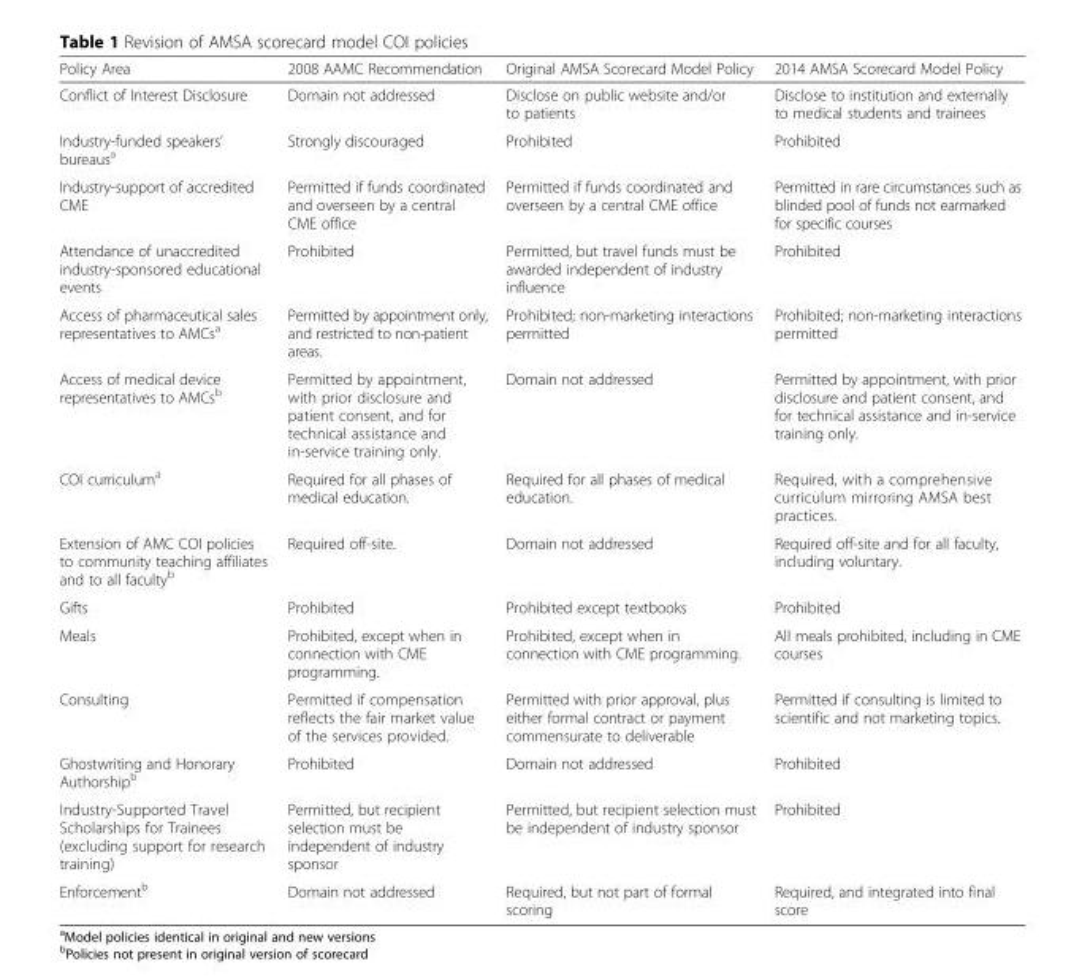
<table><thead><tr><td>Policy Area</td><td>2008 AAMC Recommendation</td><td>Original AMSA Scorecard Model Policy</td><td>2014 AMSA Scorecard Model Policy</td></tr></thead><tbody><tr><td>Conflict of Interest Disclosure</td><td>Domain not addressed</td><td>Disclose on public website and/or to patients</td><td>Disclose to institution and externally to medical students and trainees</td></tr><tr><td>Industry-funded speakers’ bureaus<sup>a</sup></td><td>Strongly discouraged</td><td>Prohibited</td><td>Prohibited</td></tr><tr><td>Industry-support of accredited CME</td><td>Permitted if funds coordinated and overseen by a central CME office</td><td>Permitted if funds coordinated and overseen by a central CME office</td><td>Permitted in rare circumstances such as blinded pool of funds not earmarked for specific courses</td></tr><tr><td>Attendance of unaccredited industry-sponsored educational events</td><td>Prohibited</td><td>Permitted, but travel funds must be awarded independent of industry influence</td><td>Prohibited</td></tr><tr><td>Access of pharmaceutical sales representatives to AMCs<sup>a</sup></td><td>Permitted by appointment only, and restricted to non-patient areas.</td><td>Prohibited; non-marketing interactions permitted</td><td>Prohibited; non-marketing interactions permitted</td></tr><tr><td>Access of medical device representatives to AMCs<sup>b</sup></td><td>Permitted by appointment, with prior disclosure and patient consent, and for technical assistance and in-service training only.</td><td>Domain not addressed</td><td>Permitted by appointment, with prior disclosure and patient consent, and for technical assistance and in-service training only.</td></tr><tr><td>COI curriculum<sup>a</sup></td><td>Required for all phases of medical education.</td><td>Required for all phases of medical education.</td><td>Required, with a comprehensive curriculum mirroring AMSA best practices.</td></tr><tr><td>Extension of AMC COI policies to community teaching affiliates and to all faculty<sup>b</sup></td><td>Required off-site.</td><td>Domain not addressed</td><td>Required off-site and for all faculty, including voluntary.</td></tr><tr><td>Gifts</td><td>Prohibited</td><td>Prohibited except textbooks</td><td>Prohibited</td></tr><tr><td>Meals</td><td>Prohibited, except when in connection with CME programming.</td><td>Prohibited, except when in connection with CME programming.</td><td>All meals prohibited, including in CME courses</td></tr><tr><td>Consulting</td><td>Permitted if compensation reflects the fair market value of the services provided.</td><td>Permitted with prior approval, plus either formal contract or payment commensurate to deliverable</td><td>Permitted if consulting is limited to scientific and not marketing topics.</td></tr><tr><td>Ghostwriting and Honorary Authorship<sup>b</sup></td><td>Prohibited</td><td>Domain not addressed</td><td>Prohibited</td></tr><tr><td>Industry-Supported Travel Scholarships for Trainees (excluding support for research training)</td><td>Permitted, but recipient selection must be independent of industry sponsor</td><td>Permitted, but recipient selection must be independent of industry sponsor</td><td>Prohibited</td></tr><tr><td>Enforcement<sup>b</sup></td><td>Domain not addressed</td><td>Required, but not part of formal scoring</td><td>Required, and integrated into final score</td></tr></tbody></table>